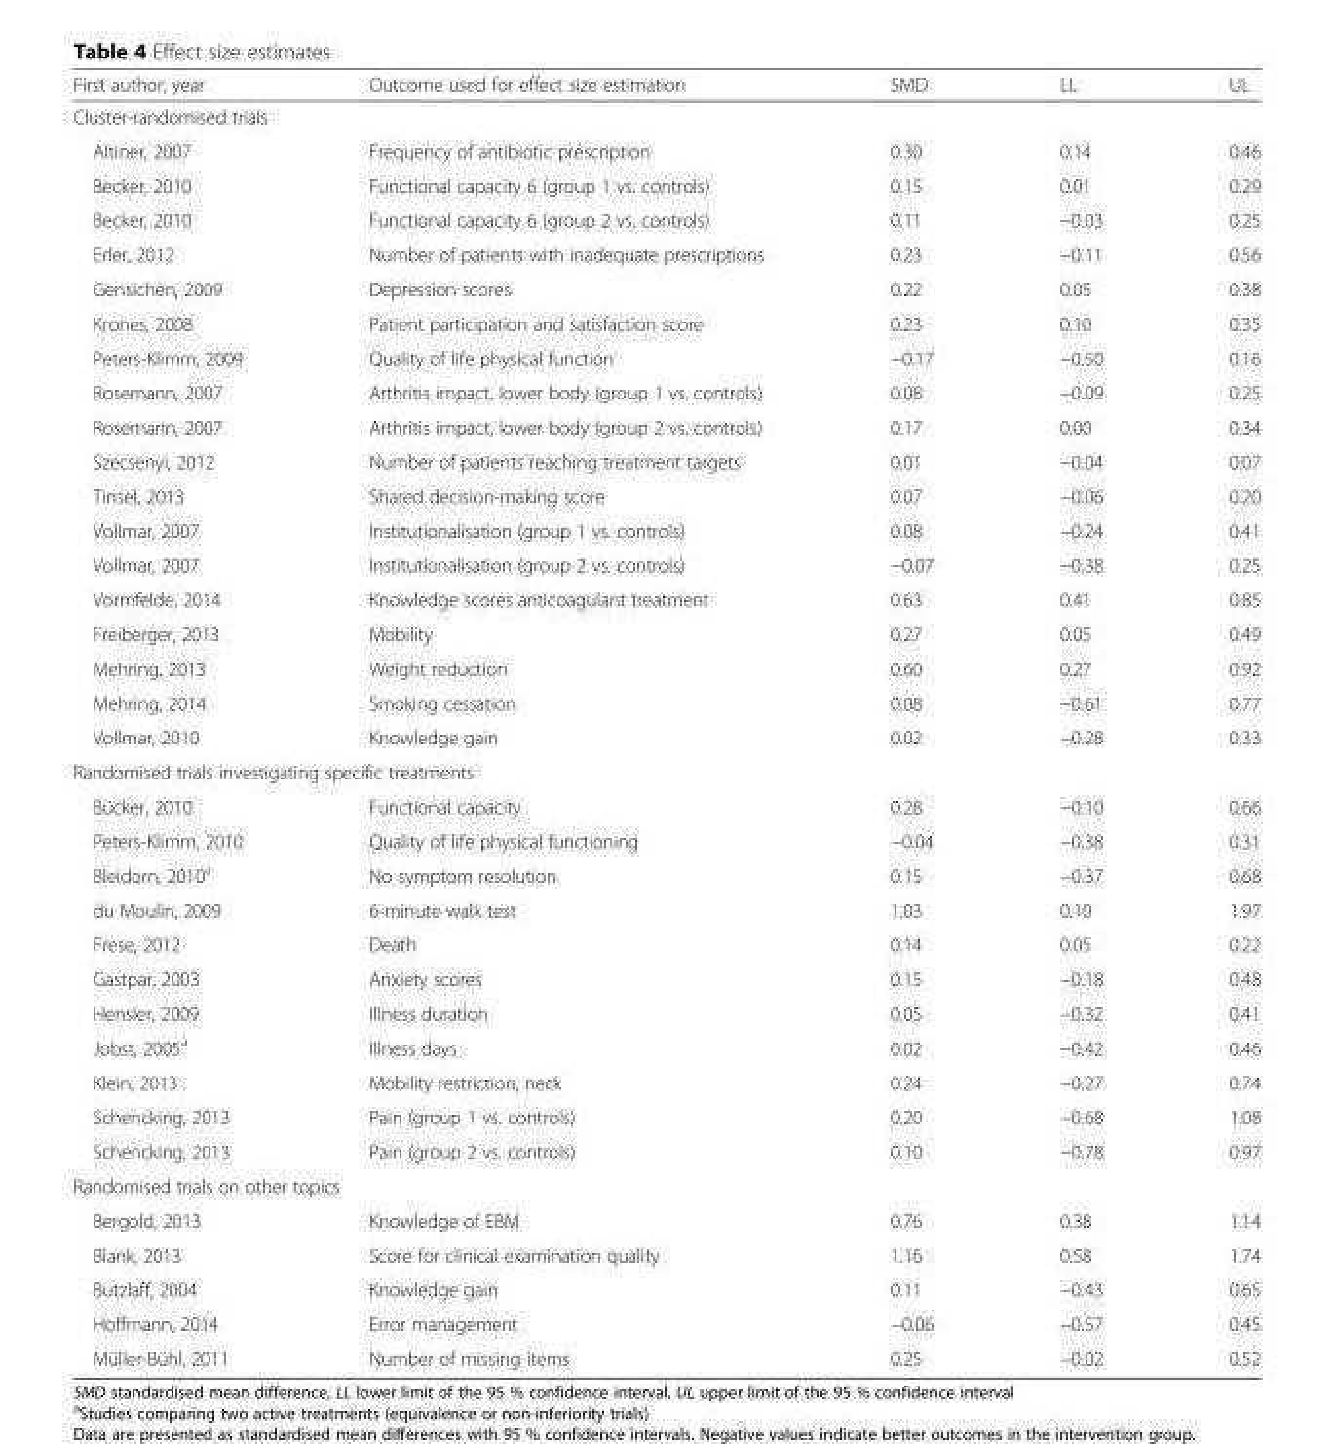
<table><thead><tr><td>First author, year</td><td>Outcome used for effect size estimation</td><td>SMD</td><td>LL</td><td>UL</td></tr></thead><tbody><tr><td colspan="5">Cluster-randomised trials</td></tr><tr><td>Altiner, 2007</td><td>Frequency of antibiotic prescription</td><td>0.30</td><td>0.14</td><td>0.46</td></tr><tr><td>Becker, 2010</td><td>Functional capacity 6 (group 1 vs. controls)</td><td>0.15</td><td>0.01</td><td>0.29</td></tr><tr><td>Becker, 2010</td><td>Functional capacity 6 (group 2 vs. controls)</td><td>0.11</td><td>−0.03</td><td>0.25</td></tr><tr><td>Erler, 2012</td><td>Number of patients with inadequate prescriptions</td><td>0.23</td><td>−0.11</td><td>0.56</td></tr><tr><td>Gensichen, 2009</td><td>Depression scores</td><td>0.22</td><td>0.05</td><td>0.38</td></tr><tr><td>Krones, 2008</td><td>Patient participation and satisfaction score</td><td>0.23</td><td>0.10</td><td>0.35</td></tr><tr><td>Peters-Klimm, 2009</td><td>Quality of life physical function</td><td>−0.17</td><td>−0.50</td><td>0.16</td></tr><tr><td>Rosemann, 2007</td><td>Arthritis impact, lower body (group 1 vs. controls)</td><td>0.08</td><td>−0.09</td><td>0.25</td></tr><tr><td>Rosemann, 2007</td><td>Arthritis impact, lower body (group 2 vs. controls)</td><td>0.17</td><td>0.00</td><td>0.34</td></tr><tr><td>Szecsenyi, 2012</td><td>Number of patients reaching treatment targets</td><td>0.01</td><td>−0.04</td><td>0.07</td></tr><tr><td>Tinsel, 2013</td><td>Shared decision-making score</td><td>0.07</td><td>−0.06</td><td>0.20</td></tr><tr><td>Vollmar, 2007</td><td>Institutionalisation (group 1 vs. controls)</td><td>0.08</td><td>−0.24</td><td>0.41</td></tr><tr><td>Vollmar, 2007</td><td>Institutionalisation (group 2 vs. controls)</td><td>−0.07</td><td>−0.38</td><td>0.25</td></tr><tr><td>Vormfelde, 2014</td><td>Knowledge scores anticoagulant treatment</td><td>0.63</td><td>0.41</td><td>0.85</td></tr><tr><td>Freiberger, 2013</td><td>Mobility</td><td>0.27</td><td>0.05</td><td>0.49</td></tr><tr><td>Mehring, 2013</td><td>Weight reduction</td><td>0.60</td><td>0.27</td><td>0.92</td></tr><tr><td>Mehring, 2014</td><td>Smoking cessation</td><td>0.08</td><td>−0.61</td><td>0.77</td></tr><tr><td>Vollmar, 2010</td><td>Knowledge gain</td><td>0.02</td><td>−0.28</td><td>0.33</td></tr><tr><td colspan="5">Randomised trials investigating specific treatments</td></tr><tr><td>Bücker, 2010</td><td>Functional capacity</td><td>0.28</td><td>−0.10</td><td>0.66</td></tr><tr><td>Peters-Klimm, 2010</td><td>Quality of life physical functioning</td><td>−0.04</td><td>−0.38</td><td>0.31</td></tr><tr><td>Bleidorn, 2010<sup>a</sup></td><td>No symptom resolution</td><td>0.15</td><td>−0.37</td><td>0.68</td></tr><tr><td>du Moulin, 2009</td><td>6-minute walk test</td><td>1.03</td><td>0.10</td><td>1.97</td></tr><tr><td>Frese, 2012</td><td>Death</td><td>0.14</td><td>0.05</td><td>0.22</td></tr><tr><td>Gastpar, 2003</td><td>Anxiety scores</td><td>0.15</td><td>−0.18</td><td>0.48</td></tr><tr><td>Hensler, 2009</td><td>Illness duration</td><td>0.05</td><td>−0.32</td><td>0.41</td></tr><tr><td>Jobst, 2005<sup>a</sup></td><td>Illness days</td><td>0.02</td><td>−0.42</td><td>0.46</td></tr><tr><td>Klein, 2013</td><td>Mobility restriction, neck</td><td>0.24</td><td>−0.27</td><td>0.74</td></tr><tr><td>Schencking, 2013</td><td>Pain (group 1 vs. controls)</td><td>0.20</td><td>−0.68</td><td>1.08</td></tr><tr><td>Schencking, 2013</td><td>Pain (group 2 vs. controls)</td><td>0.10</td><td>−0.78</td><td>0.97</td></tr><tr><td colspan="5">Randomised trials on other topics</td></tr><tr><td>Bergold, 2013</td><td>Knowledge of EBM</td><td>0.76</td><td>0.38</td><td>1.14</td></tr><tr><td>Blank, 2013</td><td>Score for clinical examination quality</td><td>1.16</td><td>0.58</td><td>1.74</td></tr><tr><td>Butzlaff, 2004</td><td>Knowledge gain</td><td>0.11</td><td>−0.43</td><td>0.65</td></tr><tr><td>Hoffmann, 2014</td><td>Error management</td><td>−0.06</td><td>−0.57</td><td>0.45</td></tr><tr><td>Müller-Bühl, 2011</td><td>Number of missing items</td><td>0.25</td><td>−0.02</td><td>0.52</td></tr></tbody></table>